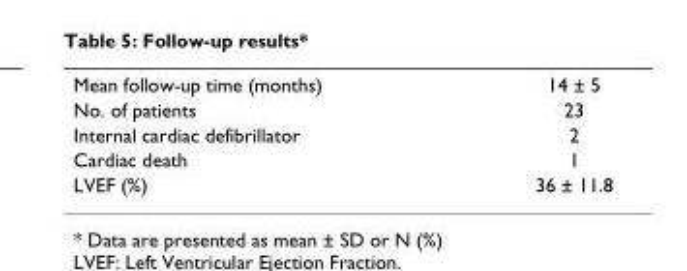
<table><tbody><tr><td>Mean follow-up time (months)</td><td>14 ± 5</td></tr><tr><td>No. of patients</td><td>23</td></tr><tr><td>Internal cardiac defibrillator</td><td>2</td></tr><tr><td>Cardiac death</td><td>1</td></tr><tr><td>LVEF (%)</td><td>36 ± 11.8</td></tr></tbody></table>